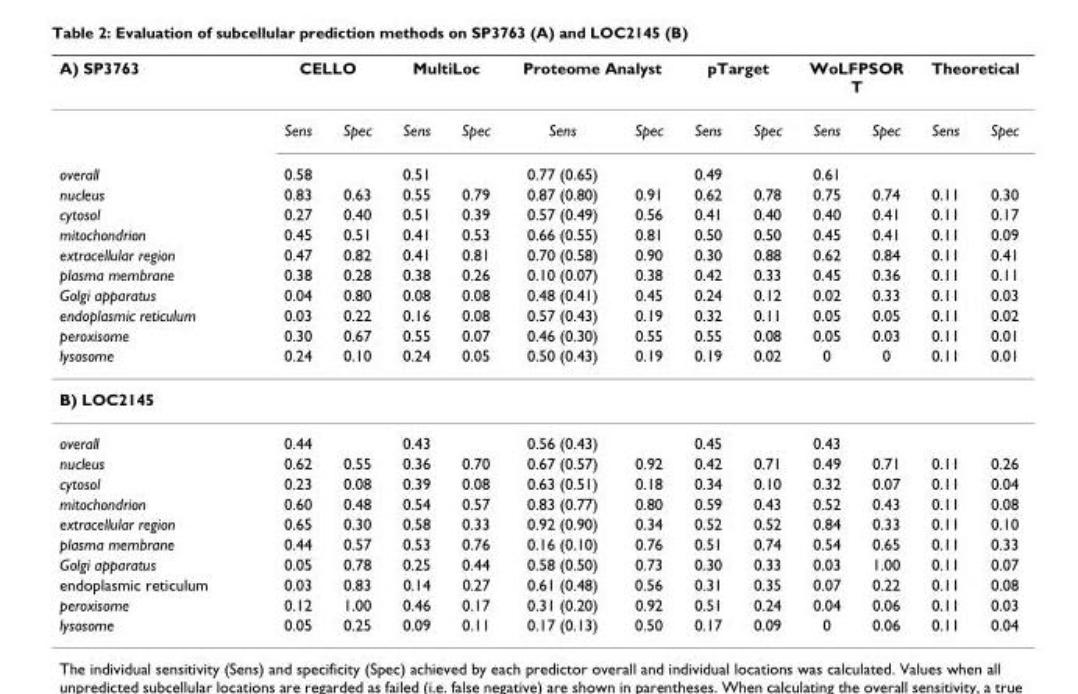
<table><thead><tr><td rowspan="2">A) SP3763</td><td colspan="2">CELLO</td><td colspan="2">MultiLoc</td><td colspan="2">Proteome Analyst</td><td colspan="2">pTarget</td><td colspan="2">WoLFPSOR T</td><td colspan="2">Theoretical</td></tr><tr><td>Sens</td><td>Spec</td><td>Sens</td><td>Spec</td><td>Sens</td><td>Spec</td><td>Sens</td><td>Spec</td><td>Sens</td><td>Spec</td><td>Sens</td><td>Spec</td></tr></thead><tbody><tr><td>overall</td><td>0.58</td><td></td><td>0.51</td><td></td><td>0.77 (0.65)</td><td></td><td>0.49</td><td></td><td>0.61</td><td></td><td></td><td></td></tr><tr><td>nucleus</td><td>0.83</td><td>0.63</td><td>0.55</td><td>0.79</td><td>0.87 (0.80)</td><td>0.91</td><td>0.62</td><td>0.78</td><td>0.75</td><td>0.74</td><td>0.11</td><td>0.30</td></tr><tr><td>cytosol</td><td>0.27</td><td>0.40</td><td>0.51</td><td>0.39</td><td>0.57 (0.49)</td><td>0.56</td><td>0.41</td><td>0.40</td><td>0.40</td><td>0.41</td><td>0.11</td><td>0.17</td></tr><tr><td>mitochondrion</td><td>0.45</td><td>0.51</td><td>0.41</td><td>0.53</td><td>0.66 (0.55)</td><td>0.81</td><td>0.50</td><td>0.50</td><td>0.45</td><td>0.41</td><td>0.11</td><td>0.09</td></tr><tr><td>extracellular region</td><td>0.47</td><td>0.82</td><td>0.41</td><td>0.81</td><td>0.70 (0.58)</td><td>0.90</td><td>0.30</td><td>0.88</td><td>0.62</td><td>0.84</td><td>0.11</td><td>0.41</td></tr><tr><td>plasma membrane</td><td>0.38</td><td>0.28</td><td>0.38</td><td>0.26</td><td>0.10 (0.07)</td><td>0.38</td><td>0.42</td><td>0.33</td><td>0.45</td><td>0.36</td><td>0.11</td><td>0.11</td></tr><tr><td>Golgi apparatus</td><td>0.04</td><td>0.80</td><td>0.08</td><td>0.08</td><td>0.48 (0.41)</td><td>0.45</td><td>0.24</td><td>0.12</td><td>0.02</td><td>0.33</td><td>0.11</td><td>0.03</td></tr><tr><td>endoplasmic reticulum</td><td>0.03</td><td>0.22</td><td>0.16</td><td>0.08</td><td>0.57 (0.43)</td><td>0.19</td><td>0.32</td><td>0.11</td><td>0.05</td><td>0.05</td><td>0.11</td><td>0.02</td></tr><tr><td>peroxisome</td><td>0.30</td><td>0.67</td><td>0.55</td><td>0.07</td><td>0.46 (0.30)</td><td>0.55</td><td>0.55</td><td>0.08</td><td>0.05</td><td>0.03</td><td>0.11</td><td>0.01</td></tr><tr><td>lysosome</td><td>0.24</td><td>0.10</td><td>0.24</td><td>0.05</td><td>0.50 (0.43)</td><td>0.19</td><td>0.19</td><td>0.02</td><td>0</td><td>0</td><td>0.11</td><td>0.01</td></tr><tr><td colspan="13">B) LOC2145</td></tr><tr><td>overall</td><td>0.44</td><td></td><td>0.43</td><td></td><td>0.56 (0.43)</td><td></td><td>0.45</td><td></td><td>0.43</td><td></td><td></td><td></td></tr><tr><td>nucleus</td><td>0.62</td><td>0.55</td><td>0.36</td><td>0.70</td><td>0.67 (0.57)</td><td>0.92</td><td>0.42</td><td>0.71</td><td>0.49</td><td>0.71</td><td>0.11</td><td>0.26</td></tr><tr><td>cytosol</td><td>0.23</td><td>0.08</td><td>0.39</td><td>0.08</td><td>0.63 (0.51)</td><td>0.18</td><td>0.34</td><td>0.10</td><td>0.32</td><td>0.07</td><td>0.11</td><td>0.04</td></tr><tr><td>mitochondrion</td><td>0.60</td><td>0.48</td><td>0.54</td><td>0.57</td><td>0.83 (0.77)</td><td>0.80</td><td>0.59</td><td>0.43</td><td>0.52</td><td>0.43</td><td>0.11</td><td>0.08</td></tr><tr><td>extracellular region</td><td>0.65</td><td>0.30</td><td>0.58</td><td>0.33</td><td>0.92 (0.90)</td><td>0.34</td><td>0.52</td><td>0.52</td><td>0.84</td><td>0.33</td><td>0.11</td><td>0.10</td></tr><tr><td>plasma membrane</td><td>0.44</td><td>0.57</td><td>0.53</td><td>0.76</td><td>0.16 (0.10)</td><td>0.76</td><td>0.51</td><td>0.74</td><td>0.54</td><td>0.65</td><td>0.11</td><td>0.33</td></tr><tr><td>Golgi apparatus</td><td>0.05</td><td>0.78</td><td>0.25</td><td>0.44</td><td>0.58 (0.50)</td><td>0.73</td><td>0.30</td><td>0.33</td><td>0.03</td><td>1.00</td><td>0.11</td><td>0.07</td></tr><tr><td>endoplasmic reticulum</td><td>0.03</td><td>0.83</td><td>0.14</td><td>0.27</td><td>0.61 (0.48)</td><td>0.56</td><td>0.31</td><td>0.35</td><td>0.07</td><td>0.22</td><td>0.11</td><td>0.08</td></tr><tr><td>peroxisome</td><td>0.12</td><td>1.00</td><td>0.46</td><td>0.17</td><td>0.31 (0.20)</td><td>0.92</td><td>0.51</td><td>0.24</td><td>0.04</td><td>0.06</td><td>0.11</td><td>0.03</td></tr><tr><td>lysosome</td><td>0.05</td><td>0.25</td><td>0.09</td><td>0.11</td><td>0.17 (0.13)</td><td>0.50</td><td>0.17</td><td>0.09</td><td>0</td><td>0.06</td><td>0.11</td><td>0.04</td></tr></tbody></table>